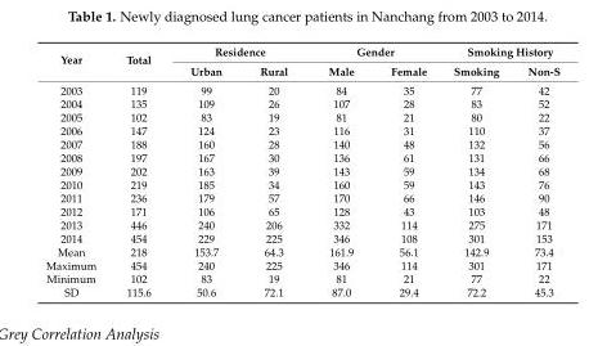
<table><thead><tr><td rowspan="2">Year</td><td rowspan="2">Total</td><td colspan="2">Residence</td><td colspan="2">Gender</td><td colspan="2">Smoking History</td></tr><tr><td>Urban</td><td>Rural</td><td>Male</td><td>Female</td><td>Smoking</td><td>Non-S</td></tr></thead><tbody><tr><td>2003</td><td>119</td><td>99</td><td>20</td><td>84</td><td>35</td><td>77</td><td>42</td></tr><tr><td>2004</td><td>135</td><td>109</td><td>26</td><td>107</td><td>28</td><td>83</td><td>52</td></tr><tr><td>2005</td><td>102</td><td>83</td><td>19</td><td>81</td><td>21</td><td>80</td><td>22</td></tr><tr><td>2006</td><td>147</td><td>124</td><td>23</td><td>116</td><td>31</td><td>110</td><td>37</td></tr><tr><td>2007</td><td>188</td><td>160</td><td>28</td><td>140</td><td>48</td><td>132</td><td>56</td></tr><tr><td>2008</td><td>197</td><td>167</td><td>30</td><td>136</td><td>61</td><td>131</td><td>66</td></tr><tr><td>2009</td><td>202</td><td>163</td><td>39</td><td>143</td><td>59</td><td>134</td><td>68</td></tr><tr><td>2010</td><td>219</td><td>185</td><td>34</td><td>160</td><td>59</td><td>143</td><td>76</td></tr><tr><td>2011</td><td>236</td><td>179</td><td>57</td><td>170</td><td>66</td><td>146</td><td>90</td></tr><tr><td>2012</td><td>171</td><td>106</td><td>65</td><td>128</td><td>43</td><td>103</td><td>48</td></tr><tr><td>2013</td><td>446</td><td>240</td><td>206</td><td>332</td><td>114</td><td>275</td><td>171</td></tr><tr><td>2014</td><td>454</td><td>229</td><td>225</td><td>346</td><td>108</td><td>301</td><td>153</td></tr><tr><td>Mean</td><td>218</td><td>153.7</td><td>64.3</td><td>161.9</td><td>56.1</td><td>142.9</td><td>73.4</td></tr><tr><td>Maximum</td><td>454</td><td>240</td><td>225</td><td>346</td><td>114</td><td>301</td><td>171</td></tr><tr><td>Minimum</td><td>102</td><td>83</td><td>19</td><td>81</td><td>21</td><td>77</td><td>22</td></tr><tr><td>SD</td><td>115.6</td><td>50.6</td><td>72.1</td><td>87.0</td><td>29.4</td><td>72.2</td><td>45.3</td></tr></tbody></table>